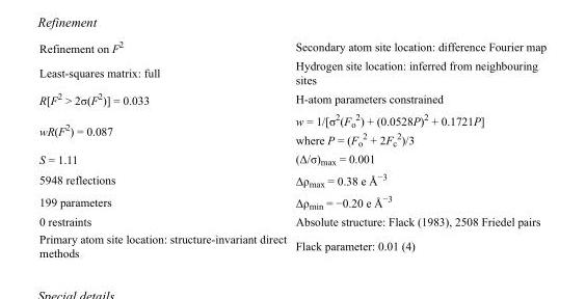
<table><tbody><tr><td>Refinement on F<sup>2</sup></td><td>Secondary atom site location: difference Fourier map</td></tr><tr><td>Least-squares matrix: full</td><td>Hydrogen site location: inferred from neighbouring sites</td></tr><tr><td>R[F<sup>2</sup> &gt; 2σ(F<sup>2</sup>)] = 0.033</td><td>H-atom parameters constrained</td></tr><tr><td>wR(F<sup>2</sup>) = 0.087</td><td>w = 1/[σ<sup>2</sup>(F<sub>o</sub> <sup>2</sup>) + (0.0528P)<sup>2</sup> + 0.1721P] where P = (F<sub>o</sub> <sup>2</sup> + 2F<sub>c</sub> <sup>2</sup>)/3</td></tr><tr><td>S = 1.11</td><td>(Δ/σ)<sub>max</sub> = 0.001</td></tr><tr><td>5948 reflections</td><td>Δρ<sub>max</sub> = 0.38 e Å<sup>−3</sup></td></tr><tr><td>199 parameters</td><td>Δρ<sub>min</sub> = −0.20 e Å<sup>−3</sup></td></tr><tr><td>0 restraints</td><td>Absolute structure: Flack (1983), 2508 Friedel pairs</td></tr><tr><td>Primary atom site location: structure-invariant direct methods</td><td>Flack parameter: 0.01 (4)</td></tr></tbody></table>